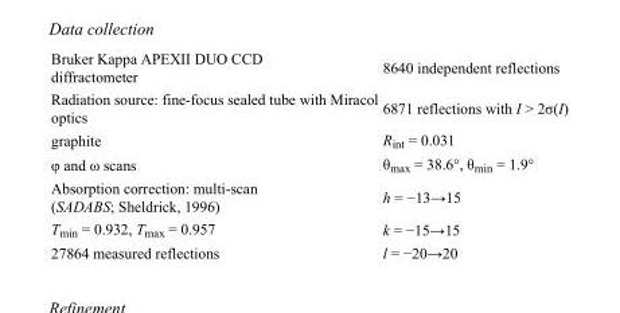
<table><tbody><tr><td>Bruker Kappa APEXII DUO CCD diffractometer</td><td>8640 independent reflections</td></tr><tr><td>Radiation source: fine-focus sealed tube with Miracol optics</td><td>6871 reflections with I &gt; 2σ(I)</td></tr><tr><td>graphite</td><td>R<sub>int</sub> = 0.031</td></tr><tr><td>φ and ω scans</td><td>θ<sub>max</sub> = 38.6°, θ<sub>min</sub> = 1.9°</td></tr><tr><td>Absorption correction: multi-scan (SADABS; Sheldrick, 1996)</td><td>h = −13→15</td></tr><tr><td>T<sub>min</sub> = 0.932, T<sub>max</sub> = 0.957</td><td>k = −15→15</td></tr><tr><td>27864 measured reflections</td><td>l = −20→20</td></tr></tbody></table>